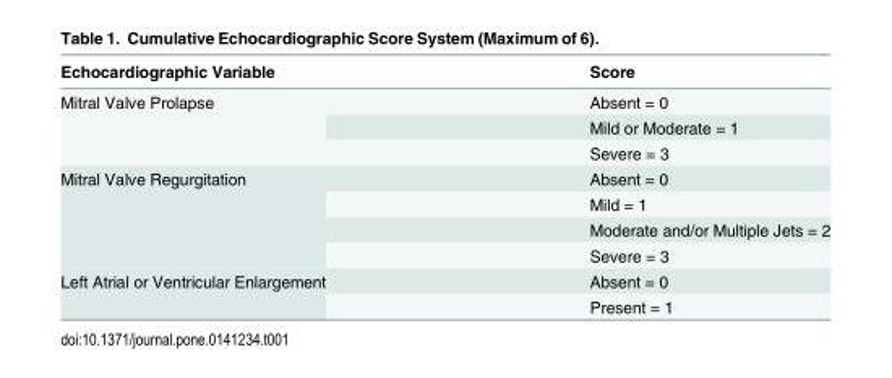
<table><thead><tr><td>Echocardiographic Variable</td><td>Score</td></tr></thead><tbody><tr><td rowspan="3">Mitral Valve Prolapse</td><td>Absent = 0</td></tr><tr><td>Mild or Moderate = 1</td></tr><tr><td>Severe = 3</td></tr><tr><td rowspan="4">Mitral Valve Regurgitation</td><td>Absent = 0</td></tr><tr><td>Mild = 1</td></tr><tr><td>Moderate and/or Multiple Jets = 2</td></tr><tr><td>Severe = 3</td></tr><tr><td rowspan="2">Left Atrial or Ventricular Enlargement</td><td>Absent = 0</td></tr><tr><td>Present = 1</td></tr></tbody></table>